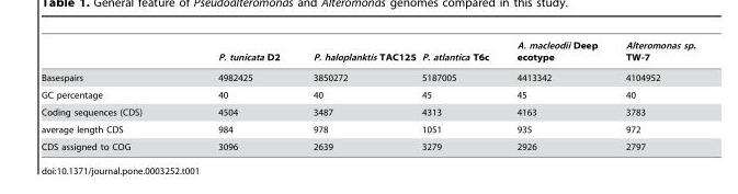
<table><thead><tr><td></td><td>P. tunicata D2</td><td>P. haloplanktis TAC125</td><td>P. atlantica T6c</td><td>A. macleodii Deep ecotype</td><td>Alteromonas sp. TW-7</td></tr></thead><tbody><tr><td>Basespairs</td><td>4982425</td><td>3850272</td><td>5187005</td><td>4413342</td><td>4104952</td></tr><tr><td>GC percentage</td><td>40</td><td>40</td><td>45</td><td>45</td><td>40</td></tr><tr><td>Coding sequences (CDS)</td><td>4504</td><td>3487</td><td>4313</td><td>4163</td><td>3783</td></tr><tr><td>average length CDS</td><td>984</td><td>978</td><td>1051</td><td>935</td><td>972</td></tr><tr><td>CDS assigned to COG</td><td>3096</td><td>2639</td><td>3279</td><td>2926</td><td>2797</td></tr></tbody></table>